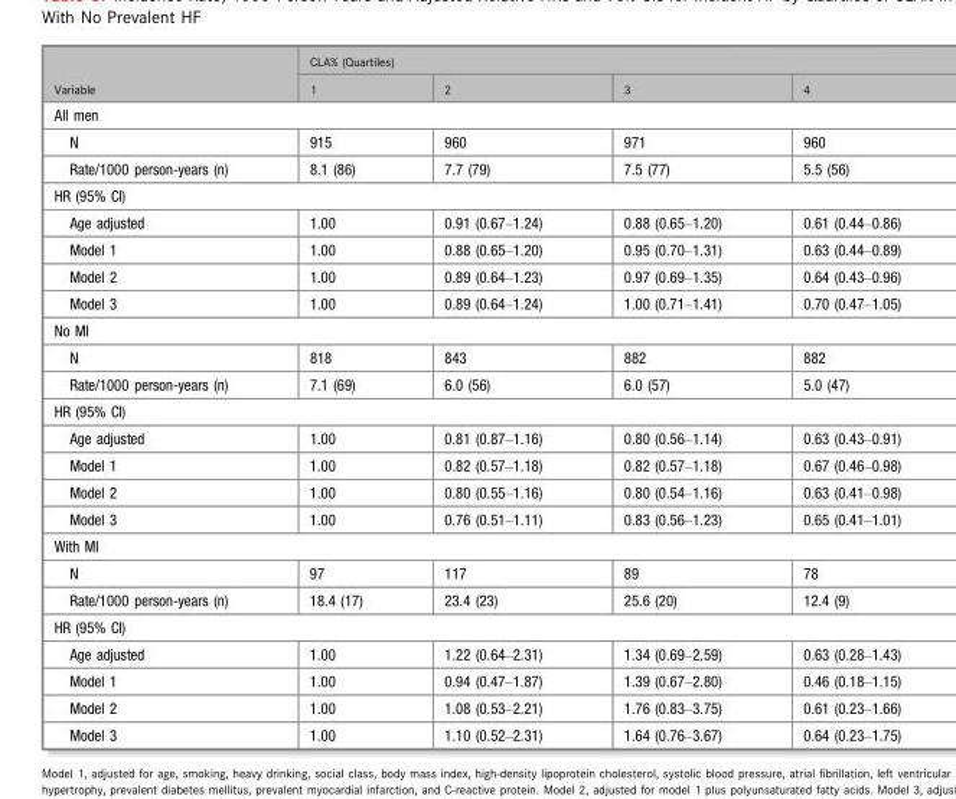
<table><thead><tr><td rowspan="2">Variable</td><td colspan="4">CLA% (Quartiles)</td></tr><tr><td>1</td><td>2</td><td>3</td><td>4</td></tr></thead><tbody><tr><td colspan="5">All men</td></tr><tr><td>N</td><td>915</td><td>960</td><td>971</td><td>960</td></tr><tr><td>Rate/1000 person-years (n)</td><td>8.1 (86)</td><td>7.7 (79)</td><td>7.5 (77)</td><td>5.5 (56)</td></tr><tr><td colspan="5">HR (95% CI)</td></tr><tr><td>Age adjusted</td><td>1.00</td><td>0.91 (0.67–1.24)</td><td>0.88 (0.65–1.20)</td><td>0.61 (0.44–0.86)</td></tr><tr><td>Model 1</td><td>1.00</td><td>0.88 (0.65–1.20)</td><td>0.95 (0.70–1.31)</td><td>0.63 (0.44–0.89)</td></tr><tr><td>Model 2</td><td>1.00</td><td>0.89 (0.64–1.23)</td><td>0.97 (0.69–1.35)</td><td>0.64 (0.43–0.96)</td></tr><tr><td>Model 3</td><td>1.00</td><td>0.89 (0.64–1.24)</td><td>1.00 (0.71–1.41)</td><td>0.70 (0.47–1.05)</td></tr><tr><td colspan="5">No MI</td></tr><tr><td>N</td><td>818</td><td>843</td><td>882</td><td>882</td></tr><tr><td>Rate/1000 person-years (n)</td><td>7.1 (69)</td><td>6.0 (56)</td><td>6.0 (57)</td><td>5.0 (47)</td></tr><tr><td colspan="5">HR (95% CI)</td></tr><tr><td>Age adjusted</td><td>1.00</td><td>0.81 (0.87–1.16)</td><td>0.80 (0.56–1.14)</td><td>0.63 (0.43–0.91)</td></tr><tr><td>Model 1</td><td>1.00</td><td>0.82 (0.57–1.18)</td><td>0.82 (0.57–1.18)</td><td>0.67 (0.46–0.98)</td></tr><tr><td>Model 2</td><td>1.00</td><td>0.80 (0.55–1.16)</td><td>0.80 (0.54–1.16)</td><td>0.63 (0.41–0.98)</td></tr><tr><td>Model 3</td><td>1.00</td><td>0.76 (0.51–1.11)</td><td>0.83 (0.56–1.23)</td><td>0.65 (0.41–1.01)</td></tr><tr><td colspan="5">With MI</td></tr><tr><td>N</td><td>97</td><td>117</td><td>89</td><td>78</td></tr><tr><td>Rate/1000 person-years (n)</td><td>18.4 (17)</td><td>23.4 (23)</td><td>25.6 (20)</td><td>12.4 (9)</td></tr><tr><td colspan="5">HR (95% CI)</td></tr><tr><td>Age adjusted</td><td>1.00</td><td>1.22 (0.64–2.31)</td><td>1.34 (0.69–2.59)</td><td>0.63 (0.28–1.43)</td></tr><tr><td>Model 1</td><td>1.00</td><td>0.94 (0.47–1.87)</td><td>1.39 (0.67–2.80)</td><td>0.46 (0.18–1.15)</td></tr><tr><td>Model 2</td><td>1.00</td><td>1.08 (0.53–2.21)</td><td>1.76 (0.83–3.75)</td><td>0.61 (0.23–1.66)</td></tr><tr><td>Model 3</td><td>1.00</td><td>1.10 (0.52–2.31)</td><td>1.64 (0.76–3.67)</td><td>0.64 (0.23–1.75)</td></tr></tbody></table>